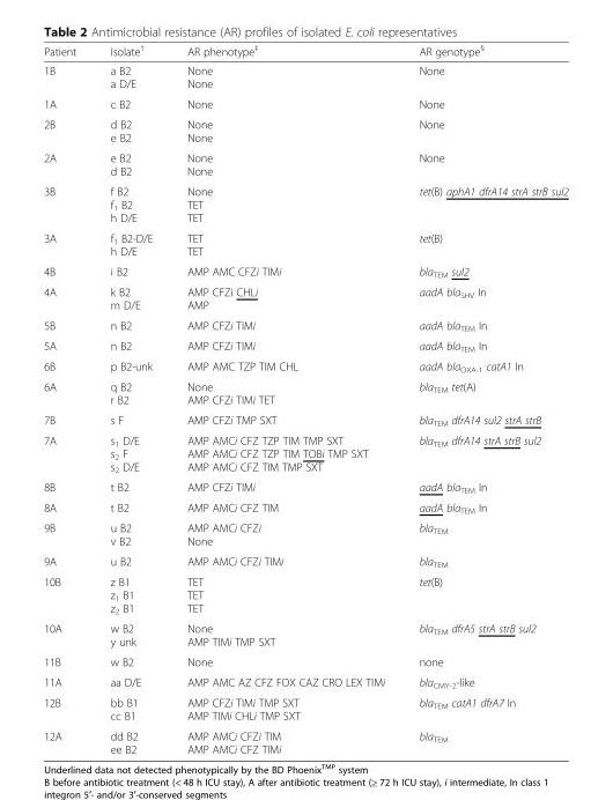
<table><thead><tr><td>Patient</td><td>Isolate<sup>†</sup></td><td>AR phenotype<sup>‡</sup></td><td>AR genotype<sup>§</sup></td></tr></thead><tbody><tr><td>1B</td><td>a B2 a D/E</td><td>None None</td><td>None</td></tr><tr><td>1A</td><td>c B2</td><td>None</td><td>None</td></tr><tr><td>2B</td><td>d B2 e B2</td><td>None None</td><td>None</td></tr><tr><td>2A</td><td>e B2 d B2</td><td>None None</td><td>None</td></tr><tr><td>3B</td><td>f B2 f<sub>1</sub> B2 h D/E</td><td>None TET TET</td><td>tet(B) aphA1 dfrA14 strA strB sul2</td></tr><tr><td>3A</td><td>f<sub>1</sub> B2-D/E h D/E</td><td>TET TET</td><td>tet(B)</td></tr><tr><td>4B</td><td>i B2</td><td>AMP AMC CFZi TIMi</td><td>bla<sub>TEM</sub> sul2</td></tr><tr><td>4A</td><td>k B2 m D/E</td><td>AMP CFZi CHLi AMP</td><td>aadA bla<sub>SHV</sub> In</td></tr><tr><td>5B</td><td>n B2</td><td>AMP CFZi TIMi</td><td>aadA bla<sub>TEM</sub> In</td></tr><tr><td>5A</td><td>n B2</td><td>AMP CFZi TIMi</td><td>aadA bla<sub>TEM</sub> In</td></tr><tr><td>6B</td><td>p B2-unk</td><td>AMP AMC TZP TIM CHL</td><td>aadA bla<sub>OXA-1</sub> catA1 In</td></tr><tr><td>6A</td><td>q B2 r B2</td><td>None AMP CFZi TIMi TET</td><td>bla<sub>TEM</sub> tet(A)</td></tr><tr><td>7B</td><td>s F</td><td>AMP CFZi TMP SXT</td><td>bla<sub>TEM</sub> dfrA14 sul2 strA strB</td></tr><tr><td>7A</td><td>s<sub>1</sub> D/E s<sub>2</sub> F s<sub>2</sub> D/E</td><td>AMP AMCi CFZ TZP TIM TMP SXT AMP AMCi CFZ TZP TIM TOBi TMP SXT AMP AMCi CFZ TIM TMP SXT</td><td>bla<sub>TEM</sub> dfrA14 strA strB sul2</td></tr><tr><td>8B</td><td>t B2</td><td>AMP CFZi TIMi</td><td>aadA bla<sub>TEM</sub> In</td></tr><tr><td>8A</td><td>t B2</td><td>AMP AMCi CFZ TIM</td><td>aadA bla<sub>TEM</sub> In</td></tr><tr><td>9B</td><td>u B2 v B2</td><td>AMP AMCi CFZi None</td><td>bla<sub>TEM</sub></td></tr><tr><td>9A</td><td>u B2</td><td>AMP AMCi CFZi TIMi</td><td>bla<sub>TEM</sub></td></tr><tr><td>10B</td><td>z B1 z<sub>1</sub> B1 z<sub>2</sub> B1</td><td>TET TET TET</td><td>tet(B)</td></tr><tr><td>10A</td><td>w B2 y unk</td><td>None AMP TIMi TMP SXT</td><td>bla<sub>TEM</sub> dfrA5 strA strB sul2</td></tr><tr><td>11B</td><td>w B2</td><td>None</td><td>none</td></tr><tr><td>11A</td><td>aa D/E</td><td>AMP AMC AZ CFZ FOX CAZ CRO LEX TIMi</td><td>bla<sub>CMY-2</sub>-like</td></tr><tr><td>12B</td><td>bb B1 cc B1</td><td>AMP CFZi TIMi TMP SXT AMP TIMi CHLi TMP SXT</td><td>bla<sub>TEM</sub> catA1 dfrA7 In</td></tr><tr><td>12A</td><td>dd B2 ee B2</td><td>AMP AMCi CFZi TIM AMP AMCi CFZ TIMi</td><td>bla<sub>TEM</sub></td></tr></tbody></table>